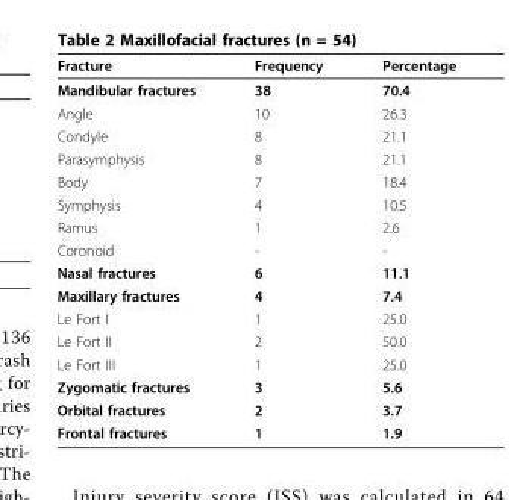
<table><thead><tr><td>Fracture</td><td>Frequency</td><td>Percentage</td></tr></thead><tbody><tr><td>Mandibular fractures</td><td>38</td><td>70.4</td></tr><tr><td>Angle</td><td>10</td><td>26.3</td></tr><tr><td>Condyle</td><td>8</td><td>21.1</td></tr><tr><td>Parasymphysis</td><td>8</td><td>21.1</td></tr><tr><td>Body</td><td>7</td><td>18.4</td></tr><tr><td>Symphysis</td><td>4</td><td>10.5</td></tr><tr><td>Ramus</td><td>1</td><td>2.6</td></tr><tr><td>Coronoid</td><td>-</td><td>-</td></tr><tr><td>Nasal fractures</td><td>6</td><td>11.1</td></tr><tr><td>Maxillary fractures</td><td>4</td><td>7.4</td></tr><tr><td>Le Fort I</td><td>1</td><td>25.0</td></tr><tr><td>Le Fort II</td><td>2</td><td>50.0</td></tr><tr><td>Le Fort III</td><td>1</td><td>25.0</td></tr><tr><td>Zygomatic fractures</td><td>3</td><td>5.6</td></tr><tr><td>Orbital fractures</td><td>2</td><td>3.7</td></tr><tr><td>Frontal fractures</td><td>1</td><td>1.9</td></tr></tbody></table>